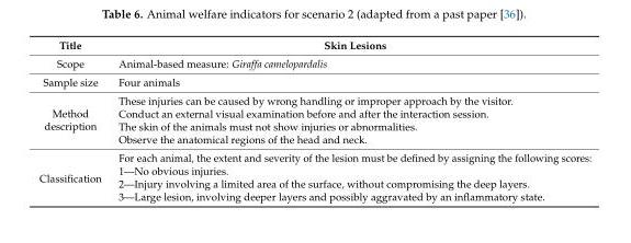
<table><thead><tr><td>Title</td><td>Skin Lesions</td></tr></thead><tbody><tr><td>Scope</td><td>Animal-based measure: Giraffa camelopardalis</td></tr><tr><td>Sample size</td><td>Four animals</td></tr><tr><td rowspan="4">Method description</td><td>These injuries can be caused by wrong handling or improper approach by the visitor.</td></tr><tr><td>Conduct an external visual examination before and after the interaction session.</td></tr><tr><td>The skin of the animals must not show injuries or abnormalities.</td></tr><tr><td>Observe the anatomical regions of the head and neck.</td></tr><tr><td rowspan="4">Classification</td><td>For each animal, the extent and severity of the lesion must be defined by assigning the following scores:</td></tr><tr><td>1—No obvious injuries.</td></tr><tr><td>2—Injury involving a limited area of the surface, without compromising the deep layers.</td></tr><tr><td>3—Large lesion, involving deeper layers and possibly aggravated by an inflammatory state.</td></tr></tbody></table>